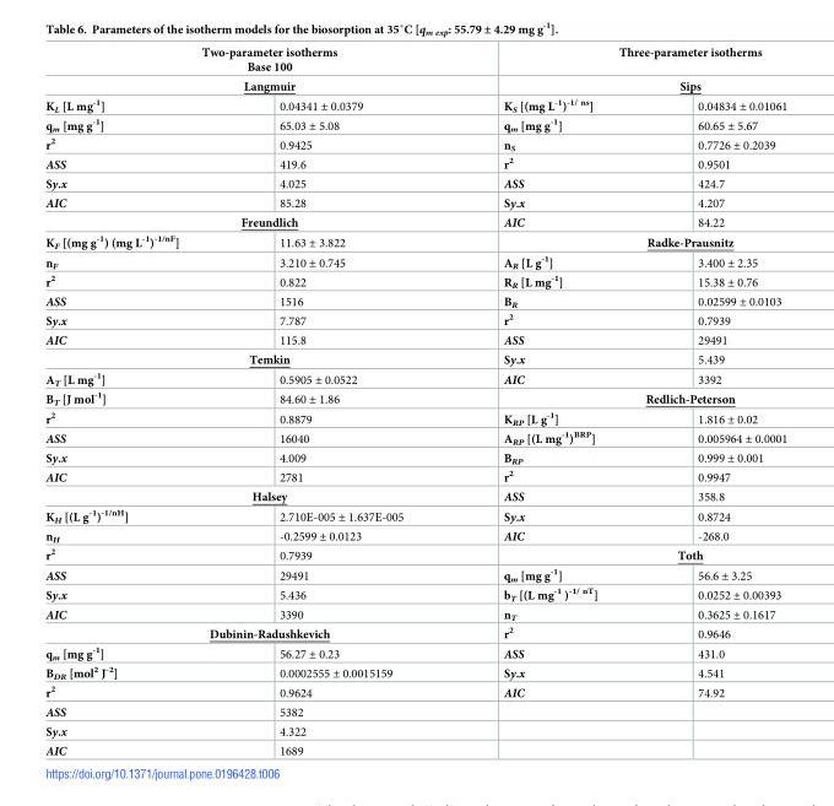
<table><thead><tr><td rowspan="2" colspan="2">Two-parameter isotherms Base 100 Langmuir</td><td rowspan="2" colspan="2">Three-parameter isotherms Sips</td></tr><tr></tr><tr><td>K<sub>L</sub> [L mg<sup>-1</sup>]</td><td>0.04341 ± 0.0379</td><td>K<sub>S</sub> [(mg L<sup>-1</sup>)<sup>-1/ ns</sup>]</td><td>0.04834 ± 0.01061</td></tr></thead><tbody><tr><td>q<sub>m</sub> [mg g<sup>-1</sup>]</td><td>65.03 ± 5.08</td><td>q<sub>m</sub> [mg g<sup>-1</sup>]</td><td>60.65 ± 5.67</td></tr><tr><td>r<sup>2</sup></td><td>0.9425</td><td>n<sub>S</sub></td><td>0.7726 ± 0.2039</td></tr><tr><td>ASS</td><td>419.6</td><td>r<sup>2</sup></td><td>0.9501</td></tr><tr><td>Sy.x</td><td>4.025</td><td>ASS</td><td>424.7</td></tr><tr><td>AIC</td><td>85.28</td><td>Sy.x</td><td>4.207</td></tr><tr><td colspan="2">Freundlich</td><td>AIC</td><td>84.22</td></tr><tr><td>K<sub>F</sub> [(mg g<sup>-1</sup>) (mg L<sup>-1</sup>)<sup>-1/nF</sup>]</td><td>11.63 ± 3.822</td><td colspan="2">Radke-Prausnitz</td></tr><tr><td>n<sub>F</sub></td><td>3.210 ± 0.745</td><td>A<sub>R</sub> [L g<sup>-1</sup>]</td><td>3.400 ± 2.35</td></tr><tr><td>r<sup>2</sup></td><td>0.822</td><td>R<sub>R</sub> [L mg<sup>-1</sup>]</td><td>15.38 ± 0.76</td></tr><tr><td>ASS</td><td>1516</td><td>B<sub>R</sub></td><td>0.02599 ± 0.0103</td></tr><tr><td>Sy.x</td><td>7.787</td><td>r<sup>2</sup></td><td>0.7939</td></tr><tr><td>AIC</td><td>115.8</td><td>ASS</td><td>29491</td></tr><tr><td colspan="2">Temkin</td><td>Sy.x</td><td>5.439</td></tr><tr><td>A<sub>T</sub> [L mg<sup>-1</sup>]</td><td>0.5905 ± 0.0522</td><td>AIC</td><td>3392</td></tr><tr><td>B<sub>T</sub> [J mol<sup>-1</sup>]</td><td>84.60 ± 1.86</td><td colspan="2">Redlich-Peterson</td></tr><tr><td>r<sup>2</sup></td><td>0.8879</td><td>K<sub>RP</sub> [L g<sup>-1</sup>]</td><td>1.816 ± 0.02</td></tr><tr><td>ASS</td><td>16040</td><td>A<sub>RP</sub> [(L mg<sup>-1</sup>)<sup>BRP</sup>]</td><td>0.005964 ± 0.0001</td></tr><tr><td>Sy.x</td><td>4.009</td><td>B<sub>RP</sub></td><td>0.999 ± 0.001</td></tr><tr><td>AIC</td><td>2781</td><td>r<sup>2</sup></td><td>0.9947</td></tr><tr><td colspan="2">Halsey</td><td>ASS</td><td>358.8</td></tr><tr><td>K<sub>H</sub> [(L g<sup>-1</sup>)<sup>-1/nH</sup>]</td><td>2.710E-005 ± 1.637E-005</td><td>Sy.x</td><td>0.8724</td></tr><tr><td>n<sub>H</sub></td><td>-0.2599 ± 0.0123</td><td>AIC</td><td>-268.0</td></tr><tr><td>r<sup>2</sup></td><td>0.7939</td><td colspan="2">Toth</td></tr><tr><td>ASS</td><td>29491</td><td>q<sub>m</sub> [mg g<sup>-1</sup>]</td><td>56.6 ± 3.25</td></tr><tr><td>Sy.x</td><td>5.436</td><td>b<sub>T</sub> [(L mg<sup>-1</sup> )<sup>-1/ nT</sup>]</td><td>0.0252 ± 0.00393</td></tr><tr><td>AIC</td><td>3390</td><td>n<sub>T</sub></td><td>0.3625 ± 0.1617</td></tr><tr><td colspan="2">Dubinin-Radushkevich</td><td>r<sup>2</sup></td><td>0.9646</td></tr><tr><td>q<sub>m</sub> [mg g<sup>-1</sup>]</td><td>56.27 ± 0.23</td><td>ASS</td><td>431.0</td></tr><tr><td>B<sub>DR</sub> [mol<sup>2</sup> J<sup>-2</sup>]</td><td>0.0002555 ± 0.0015159</td><td>Sy.x</td><td>4.541</td></tr><tr><td>r<sup>2</sup></td><td>0.9624</td><td>AIC</td><td>74.92</td></tr><tr><td>ASS</td><td>5382</td><td></td><td></td></tr><tr><td>Sy.x</td><td>4.322</td><td></td><td></td></tr><tr><td>AIC</td><td>1689</td><td></td><td></td></tr></tbody></table>